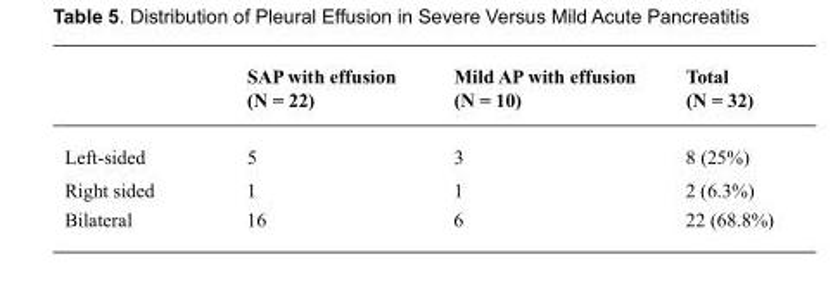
<table><thead><tr><td></td><td>SAP with effusion (N = 22)</td><td>Mild AP with effusion (N = 10)</td><td>Total (N = 32)</td></tr></thead><tbody><tr><td>Left-sided</td><td>5</td><td>3</td><td>8 (25%)</td></tr><tr><td>Right sided</td><td>1</td><td>1</td><td>2 (6.3%)</td></tr><tr><td>Bilateral</td><td>16</td><td>6</td><td>22 (68.8%)</td></tr></tbody></table>